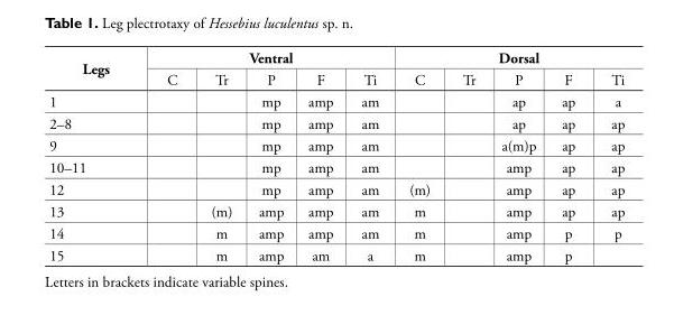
<table><tbody><tr><td rowspan="2">Legs</td><td colspan="5">Ventral</td><td colspan="5">Dorsal</td></tr><tr><td>C</td><td>Tr</td><td>P</td><td>F</td><td>Ti</td><td>C</td><td>Tr</td><td>P</td><td>F</td><td>Ti</td></tr><tr><td>1</td><td></td><td></td><td>mp</td><td>amp</td><td>am</td><td></td><td></td><td>ap</td><td>ap</td><td>a</td></tr><tr><td>2–8</td><td></td><td></td><td>mp</td><td>amp</td><td>am</td><td></td><td></td><td>ap</td><td>ap</td><td>ap</td></tr><tr><td>9</td><td></td><td></td><td>mp</td><td>amp</td><td>am</td><td></td><td></td><td>a(m)p</td><td>ap</td><td>ap</td></tr><tr><td>10–11</td><td></td><td></td><td>mp</td><td>amp</td><td>am</td><td></td><td></td><td>amp</td><td>ap</td><td>ap</td></tr><tr><td>12</td><td></td><td></td><td>mp</td><td>amp</td><td>am</td><td>(m)</td><td></td><td>amp</td><td>ap</td><td>ap</td></tr><tr><td>13</td><td></td><td>(m)</td><td>amp</td><td>amp</td><td>am</td><td>m</td><td></td><td>amp</td><td>ap</td><td>ap</td></tr><tr><td>14</td><td></td><td>m</td><td>amp</td><td>amp</td><td>am</td><td>m</td><td></td><td>amp</td><td>p</td><td>p</td></tr><tr><td>15</td><td></td><td>m</td><td>amp</td><td>am</td><td>a</td><td>m</td><td></td><td>amp</td><td>p</td><td></td></tr></tbody></table>